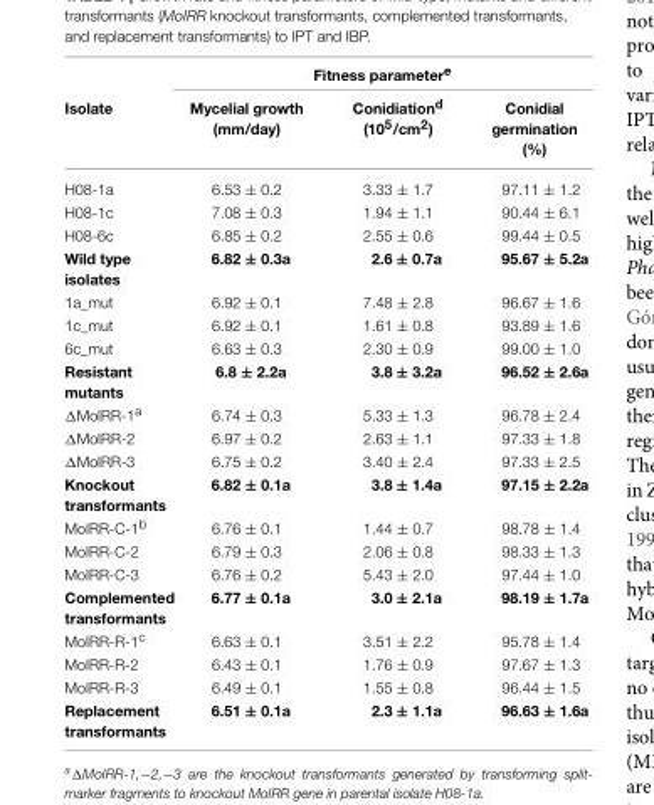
<table><thead><tr><td rowspan="2">Isolate</td><td colspan="3">Fitness parameter<sup>e</sup></td></tr><tr><td>Mycelial growth (mm/day)</td><td>Conidiation<sup>d</sup> (10<sup>5</sup>/cm<sup>2</sup>)</td><td>Conidial germination (%)</td></tr></thead><tbody><tr><td>H08-1a</td><td>6.53 ± 0.2</td><td>3.33 ± 1.7</td><td>97.11 ± 1.2</td></tr><tr><td>H08-1c</td><td>7.08 ± 0.3</td><td>1.94 ± 1.1</td><td>90.44 ± 6.1</td></tr><tr><td>H08-6c</td><td>6.85 ± 0.2</td><td>2.55 ± 0.6</td><td>99.44 ± 0.5</td></tr><tr><td>Wild type isolates</td><td>6.82 ± 0.3a</td><td>2.6 ± 0.7a</td><td>95.67 ± 5.2a</td></tr><tr><td>1a_mut</td><td>6.92 ± 0.1</td><td>7.48 ± 2.8</td><td>96.67 ± 1.6</td></tr><tr><td>1c_mut</td><td>6.92 ± 0.1</td><td>1.61 ± 0.8</td><td>93.89 ± 1.6</td></tr><tr><td>6c_mut</td><td>6.63 ± 0.3</td><td>2.30 ± 0.9</td><td>99.00 ± 1.0</td></tr><tr><td>Resistant mutants</td><td>6.8 ± 2.2a</td><td>3.8 ± 3.2a</td><td>96.52 ± 2.6a</td></tr><tr><td>ΔMoIRR-1<sup>a</sup></td><td>6.74 ± 0.3</td><td>5.33 ± 1.3</td><td>96.78 ± 2.4</td></tr><tr><td>ΔMoIRR-2</td><td>6.97 ± 0.2</td><td>2.63 ± 1.1</td><td>97.33 ± 1.8</td></tr><tr><td>ΔMoIRR-3</td><td>6.75 ± 0.2</td><td>3.40 ± 2.4</td><td>97.33 ± 2.5</td></tr><tr><td>Knockout transformants</td><td>6.82 ± 0.1a</td><td>3.8 ± 1.4a</td><td>97.15 ± 2.2a</td></tr><tr><td>MoIRR-C-1<sup>b</sup></td><td>6.76 ± 0.1</td><td>1.44 ± 0.7</td><td>98.78 ± 1.4</td></tr><tr><td>MoIRR-C-2</td><td>6.79 ± 0.3</td><td>2.06 ± 0.8</td><td>98.33 ± 1.3</td></tr><tr><td>MoIRR-C-3</td><td>6.76 ± 0.2</td><td>5.43 ± 2.0</td><td>97.44 ± 1.0</td></tr><tr><td>Complemented transformants</td><td>6.77 ± 0.1a</td><td>3.0 ± 2.1a</td><td>98.19 ± 1.7a</td></tr><tr><td>MoIRR-R-1<sup>c</sup></td><td>6.63 ± 0.1</td><td>3.51 ± 2.2</td><td>95.78 ± 1.4</td></tr><tr><td>MoIRR-R-2</td><td>6.43 ± 0.1</td><td>1.76 ± 0.9</td><td>97.67 ± 1.3</td></tr><tr><td>MoIRR-R-3</td><td>6.49 ± 0.1</td><td>1.55 ± 0.8</td><td>96.44 ± 1.5</td></tr><tr><td>Replacement transformants</td><td>6.51 ± 0.1a</td><td>2.3 ± 1.1a</td><td>96.63 ± 1.6a</td></tr></tbody></table>